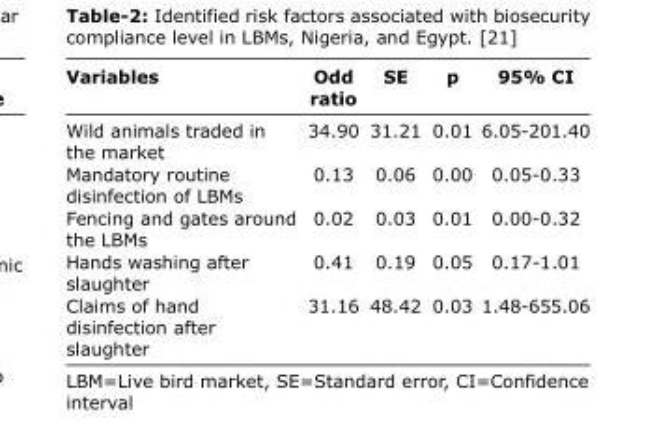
<table><thead><tr><td>Variables</td><td>Odd ratio</td><td>SE</td><td>p</td><td>95% CI</td></tr></thead><tbody><tr><td>Wild animals traded in the market</td><td>34.90</td><td>31.21</td><td>0.01</td><td>6.05-201.40</td></tr><tr><td>Mandatory routine disinfection of LBMs</td><td>0.13</td><td>0.06</td><td>0.00</td><td>0.05-0.33</td></tr><tr><td>Fencing and gates around the LBMs</td><td>0.02</td><td>0.03</td><td>0.01</td><td>0.00-0.32</td></tr><tr><td>Hands washing after slaughter</td><td>0.41</td><td>0.19</td><td>0.05</td><td>0.17-1.01</td></tr><tr><td>Claims of hand disinfection after slaughter</td><td>31.16</td><td>48.42</td><td>0.03</td><td>1.48-655.06</td></tr></tbody></table>